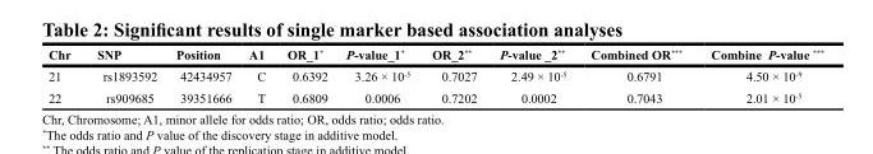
<table><thead><tr><td>Chr</td><td>SNP</td><td>Position</td><td>A1</td><td>OR_1*</td><td>P-value_1*</td><td>OR_2**</td><td>P-value _2**</td><td>Combined OR***</td><td>Combine P-value ***</td></tr></thead><tbody><tr><td>21</td><td>rs1893592</td><td>42434957</td><td>C</td><td>0.6392</td><td>3.26 × 10<sup>-5</sup></td><td>0.7027</td><td>2.49 × 10<sup>-5</sup></td><td>0.6791</td><td>4.50 × 10<sup>-9</sup></td></tr><tr><td>22</td><td>rs909685</td><td>39351666</td><td>T</td><td>0.6809</td><td>0.0006</td><td>0.7202</td><td>0.0002</td><td>0.7043</td><td>2.01 × 10<sup>-5</sup></td></tr></tbody></table>